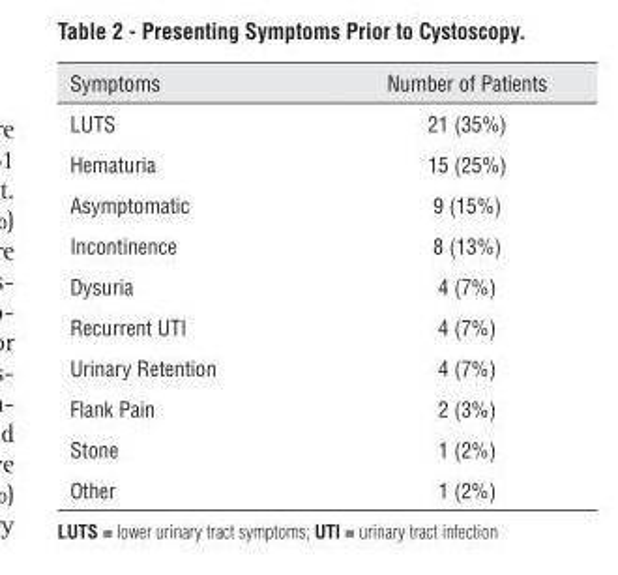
<table><thead><tr><td>Symptoms</td><td>Number of Patients</td></tr></thead><tbody><tr><td>LUTS</td><td>21 (35%)</td></tr><tr><td>Hematuria</td><td>15 (25%)</td></tr><tr><td>Asymptomatic</td><td>9 (15%)</td></tr><tr><td>Incontinence</td><td>8 (13%)</td></tr><tr><td>Dysuria</td><td>4 (7%)</td></tr><tr><td>Recurrent UTI</td><td>4 (7%)</td></tr><tr><td>Urinary Retention</td><td>4 (7%)</td></tr><tr><td>Flank Pain</td><td>2 (3%)</td></tr><tr><td>Stone</td><td>1 (2%)</td></tr><tr><td>Other</td><td>1 (2%)</td></tr></tbody></table>